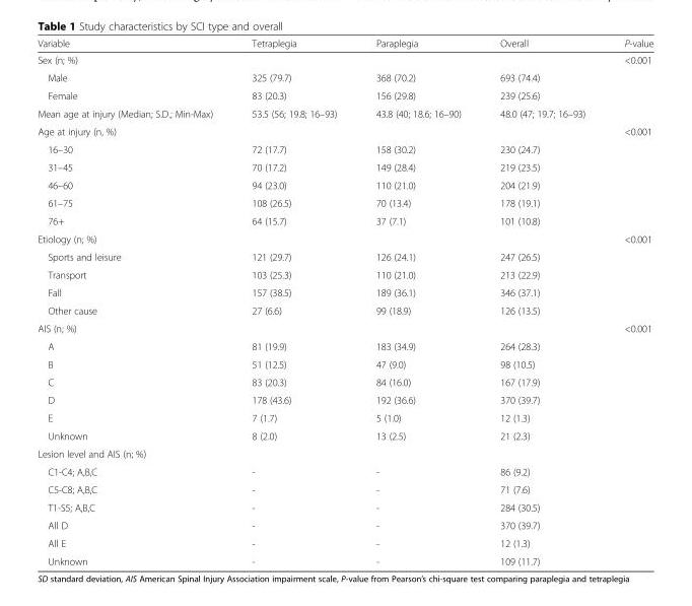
<table><thead><tr><td>Variable</td><td>Tetraplegia</td><td>Paraplegia</td><td>Overall</td><td>P-value</td></tr></thead><tbody><tr><td>Sex (n; %)</td><td></td><td></td><td></td><td>&lt;0.001</td></tr><tr><td>Male</td><td>325 (79.7)</td><td>368 (70.2)</td><td>693 (74.4)</td><td></td></tr><tr><td>Female</td><td>83 (20.3)</td><td>156 (29.8)</td><td>239 (25.6)</td><td></td></tr><tr><td>Mean age at injury (Median; S.D.; Min-Max)</td><td>53.5 (56; 19.8; 16–93)</td><td>43.8 (40; 18.6; 16–90)</td><td>48.0 (47; 19.7; 16–93)</td><td></td></tr><tr><td>Age at injury (n, %)</td><td></td><td></td><td></td><td>&lt;0.001</td></tr><tr><td>16–30</td><td>72 (17.7)</td><td>158 (30.2)</td><td>230 (24.7)</td><td></td></tr><tr><td>31–45</td><td>70 (17.2)</td><td>149 (28.4)</td><td>219 (23.5)</td><td></td></tr><tr><td>46–60</td><td>94 (23.0)</td><td>110 (21.0)</td><td>204 (21.9)</td><td></td></tr><tr><td>61–75</td><td>108 (26.5)</td><td>70 (13.4)</td><td>178 (19.1)</td><td></td></tr><tr><td>76+</td><td>64 (15.7)</td><td>37 (7.1)</td><td>101 (10.8)</td><td></td></tr><tr><td>Etiology (n; %)</td><td></td><td></td><td></td><td>&lt;0.001</td></tr><tr><td>Sports and leisure</td><td>121 (29.7)</td><td>126 (24.1)</td><td>247 (26.5)</td><td></td></tr><tr><td>Transport</td><td>103 (25.3)</td><td>110 (21.0)</td><td>213 (22.9)</td><td></td></tr><tr><td>Fall</td><td>157 (38.5)</td><td>189 (36.1)</td><td>346 (37.1)</td><td></td></tr><tr><td>Other cause</td><td>27 (6.6)</td><td>99 (18.9)</td><td>126 (13.5)</td><td></td></tr><tr><td>AIS (n; %)</td><td></td><td></td><td></td><td>&lt;0.001</td></tr><tr><td>A</td><td>81 (19.9)</td><td>183 (34.9)</td><td>264 (28.3)</td><td></td></tr><tr><td>B</td><td>51 (12.5)</td><td>47 (9.0)</td><td>98 (10.5)</td><td></td></tr><tr><td>C</td><td>83 (20.3)</td><td>84 (16.0)</td><td>167 (17.9)</td><td></td></tr><tr><td>D</td><td>178 (43.6)</td><td>192 (36.6)</td><td>370 (39.7)</td><td></td></tr><tr><td>E</td><td>7 (1.7)</td><td>5 (1.0)</td><td>12 (1.3)</td><td></td></tr><tr><td>Unknown</td><td>8 (2.0)</td><td>13 (2.5)</td><td>21 (2.3)</td><td></td></tr><tr><td colspan="5">Lesion level and AIS (n; %)</td></tr><tr><td>C1-C4; A,B,C</td><td>-</td><td>-</td><td>86 (9.2)</td><td></td></tr><tr><td>C5-C8; A,B,C</td><td>-</td><td>-</td><td>71 (7.6)</td><td></td></tr><tr><td>T1-S5; A,B,C</td><td>-</td><td>-</td><td>284 (30.5)</td><td></td></tr><tr><td>All D</td><td>-</td><td>-</td><td>370 (39.7)</td><td></td></tr><tr><td>All E</td><td>-</td><td>-</td><td>12 (1.3)</td><td></td></tr><tr><td>Unknown</td><td>-</td><td>-</td><td>109 (11.7)</td><td></td></tr></tbody></table>